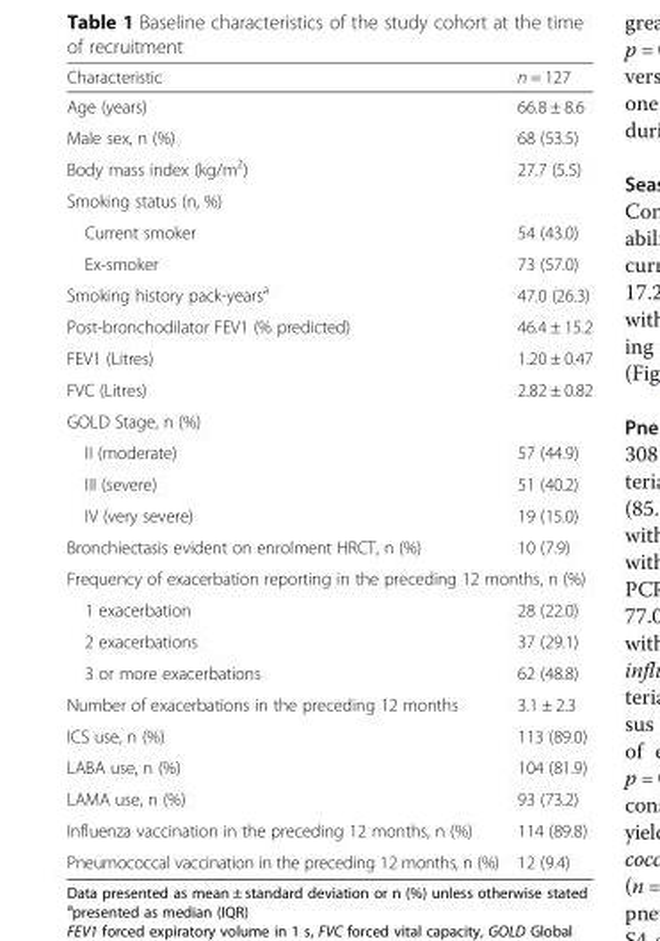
<table><thead><tr><td>Characteristic</td><td>n = 127</td></tr></thead><tbody><tr><td>Age (years)</td><td>66.8 ± 8.6</td></tr><tr><td>Male sex, n (%)</td><td>68 (53.5)</td></tr><tr><td>Body mass index (kg/m<sup>2</sup>)</td><td>27.7 (5.5)</td></tr><tr><td colspan="2">Smoking status (n, %)</td></tr><tr><td>Current smoker</td><td>54 (43.0)</td></tr><tr><td>Ex-smoker</td><td>73 (57.0)</td></tr><tr><td>Smoking history pack-years<sup>a</sup></td><td>47.0 (26.3)</td></tr><tr><td>Post-bronchodilator FEV1 (% predicted)</td><td>46.4 ± 15.2</td></tr><tr><td>FEV1 (Litres)</td><td>1.20 ± 0.47</td></tr><tr><td>FVC (Litres)</td><td>2.82 ± 0.82</td></tr><tr><td colspan="2">GOLD Stage, n (%)</td></tr><tr><td>II (moderate)</td><td>57 (44.9)</td></tr><tr><td>III (severe)</td><td>51 (40.2)</td></tr><tr><td>IV (very severe)</td><td>19 (15.0)</td></tr><tr><td>Bronchiectasis evident on enrolment HRCT, n (%)</td><td>10 (7.9)</td></tr><tr><td colspan="2">Frequency of exacerbation reporting in the preceding 12 months, n (%)</td></tr><tr><td>1 exacerbation</td><td>28 (22.0)</td></tr><tr><td>2 exacerbations</td><td>37 (29.1)</td></tr><tr><td>3 or more exacerbations</td><td>62 (48.8)</td></tr><tr><td>Number of exacerbations in the preceding 12 months</td><td>3.1 ± 2.3</td></tr><tr><td>ICS use, n (%)</td><td>113 (89.0)</td></tr><tr><td>LABA use, n (%)</td><td>104 (81.9)</td></tr><tr><td>LAMA use, n (%)</td><td>93 (73.2)</td></tr><tr><td>Influenza vaccination in the preceding 12 months, n (%)</td><td>114 (89.8)</td></tr><tr><td>Pneumococcal vaccination in the preceding 12 months, n (%)</td><td>12 (9.4)</td></tr></tbody></table>